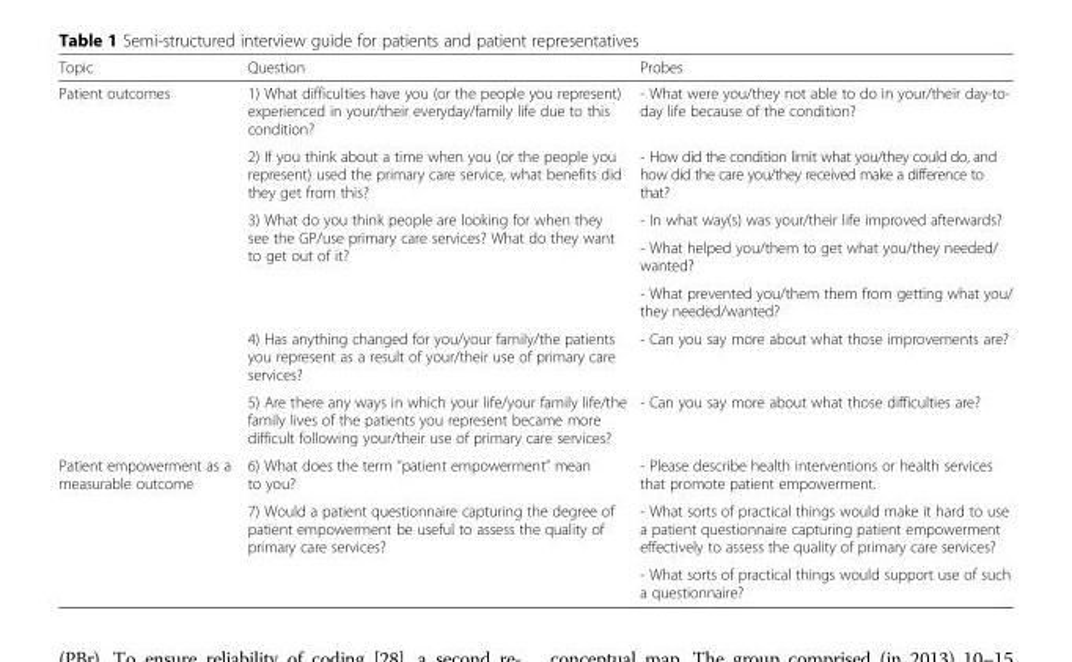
<table><thead><tr><td>Topic</td><td>Question</td><td>Probes</td></tr></thead><tbody><tr><td rowspan="7">Patient outcomes</td><td>1) What difficulties have you (or the people you represent) experienced in your/their everyday/family life due to this condition?</td><td>- What were you/they not able to do in your/their day-to- day life because of the condition?</td></tr><tr><td>2) If you think about a time when you (or the people you represent) used the primary care service, what benefits did they get from this?</td><td>- How did the condition limit what you/they could do, and how did the care you/they received make a difference to that?</td></tr><tr><td rowspan="3">3) What do you think people are looking for when they see the GP/use primary care services? What do they want to get out of it?</td><td>- In what way(s) was your/their life improved afterwards?</td></tr><tr><td>- What helped you/them to get what you/they needed/ wanted?</td></tr><tr><td>- What prevented you/them them from getting what you/ they needed/wanted?</td></tr><tr><td>4) Has anything changed for you/your family/the patients you represent as a result of your/their use of primary care services?</td><td>- Can you say more about what those improvements are?</td></tr><tr><td>5) Are there any ways in which your life/your family life/the family lives of the patients you represent became more difficult following your/their use of primary care services?</td><td>- Can you say more about what those difficulties are?</td></tr><tr><td rowspan="3">Patient empowerment as a measurable outcome</td><td>6) What does the term “patient empowerment” mean to you?</td><td>- Please describe health interventions or health services that promote patient empowerment.</td></tr><tr><td rowspan="2">7) Would a patient questionnaire capturing the degree of patient empowerment be useful to assess the quality of primary care services?</td><td>- What sorts of practical things would make it hard to use a patient questionnaire capturing patient empowerment effectively to assess the quality of primary care services?</td></tr><tr><td>- What sorts of practical things would support use of such a questionnaire?</td></tr></tbody></table>